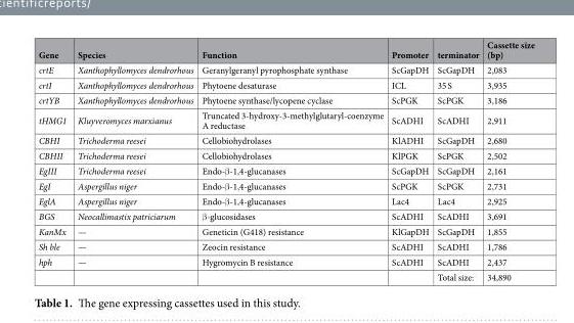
<table><thead><tr><td>Gene</td><td>Species</td><td>Function</td><td>Promoter</td><td>terminator</td><td>Cassette size (bp)</td></tr></thead><tbody><tr><td>crtE</td><td>Xanthophyllomyces dendrorhous</td><td>Geranylgeranyl pyrophosphate synthase</td><td>ScGapDH</td><td>ScGapDH</td><td>2,083</td></tr><tr><td>crtI</td><td>Xanthophyllomyces dendrorhous</td><td>Phytoene desaturase</td><td>ICL</td><td>35 S</td><td>3,935</td></tr><tr><td>crtYB</td><td>Xanthophyllomyces dendrorhous</td><td>Phytoene synthase/lycopene cyclase</td><td>ScPGK</td><td>ScPGK</td><td>3,186</td></tr><tr><td>tHMG1</td><td>Kluyveromyces marxianus</td><td>Truncated 3-hydroxy-3-methylglutaryl-coenzyme A reductase</td><td>ScADHI</td><td>ScADHI</td><td>2,911</td></tr><tr><td>CBHI</td><td>Trichoderma reesei</td><td>Cellobiohydrolases</td><td>KlADHI</td><td>ScGapDH</td><td>2,680</td></tr><tr><td>CBHII</td><td>Trichoderma reesei</td><td>Cellobiohydrolases</td><td>KlPGK</td><td>ScPGK</td><td>2,502</td></tr><tr><td>EgIII</td><td>Trichoderma reesei</td><td>Endo-β-1,4-glucanases</td><td>ScGapDH</td><td>ScGapDH</td><td>2,161</td></tr><tr><td>EgI</td><td>Aspergillus niger</td><td>Endo-β-1,4-glucanases</td><td>ScPGK</td><td>ScPGK</td><td>2,731</td></tr><tr><td>EglA</td><td>Aspergillus niger</td><td>Endo-β-1,4-glucanases</td><td>Lac4</td><td>Lac4</td><td>2,925</td></tr><tr><td>BGS</td><td>Neocallimastix patriciarum</td><td>β-glucosidases</td><td>ScADHI</td><td>ScADHI</td><td>3,691</td></tr><tr><td>KanMx</td><td>—</td><td>Geneticin (G418) resistance</td><td>KlGapDH</td><td>ScGapDH</td><td>1,855</td></tr><tr><td>Sh ble</td><td>—</td><td>Zeocin resistance</td><td>ScADHI</td><td>ScADHI</td><td>1,786</td></tr><tr><td rowspan="2">hph</td><td>—</td><td>Hygromycin B resistance</td><td>ScADHI</td><td>ScADHI</td><td>2,437</td></tr><tr><td></td><td></td><td></td><td>Total size:</td><td>34,890</td></tr></tbody></table>